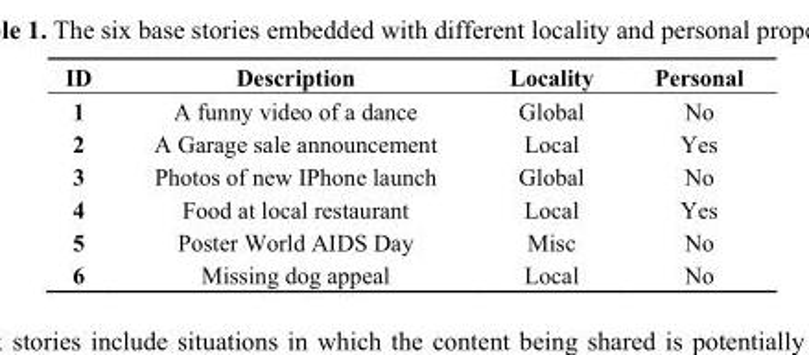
<table><thead><tr><td>ID</td><td>Description</td><td>Locality</td><td>Personal</td></tr></thead><tbody><tr><td>1</td><td>A funny video of a dance</td><td>Global</td><td>No</td></tr><tr><td>2</td><td>A Garage sale announcement</td><td>Local</td><td>Yes</td></tr><tr><td>3</td><td>Photos of new IPhone launch</td><td>Global</td><td>No</td></tr><tr><td>4</td><td>Food at local restaurant</td><td>Local</td><td>Yes</td></tr><tr><td>5</td><td>Poster World AIDS Day</td><td>Misc</td><td>No</td></tr><tr><td>6</td><td>Missing dog appeal</td><td>Local</td><td>No</td></tr></tbody></table>